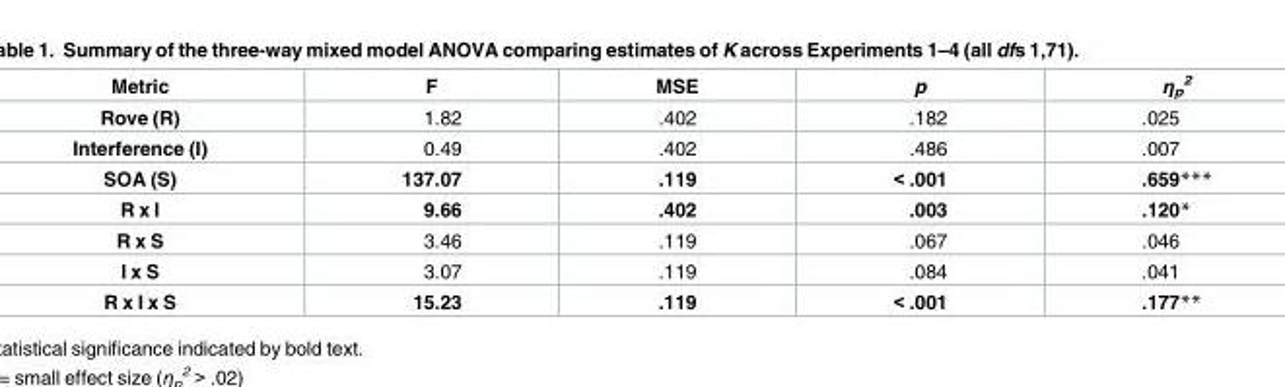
<table><thead><tr><td>Metric</td><td>F</td><td>MSE</td><td>p</td><td>ηp 2</td></tr></thead><tbody><tr><td>Rove (R)</td><td>1.82</td><td>.402</td><td>.182</td><td>.025</td></tr><tr><td>Interference (I)</td><td>0.49</td><td>.402</td><td>.486</td><td>.007</td></tr><tr><td>SOA (S)</td><td>137.07</td><td>.119</td><td>&lt; .001</td><td>.659***</td></tr><tr><td>R x I</td><td>9.66</td><td>.402</td><td>.003</td><td>.120*</td></tr><tr><td>R x S</td><td>3.46</td><td>.119</td><td>.067</td><td>.046</td></tr><tr><td>I x S</td><td>3.07</td><td>.119</td><td>.084</td><td>.041</td></tr><tr><td>R x I x S</td><td>15.23</td><td>.119</td><td>&lt; .001</td><td>.177**</td></tr></tbody></table>